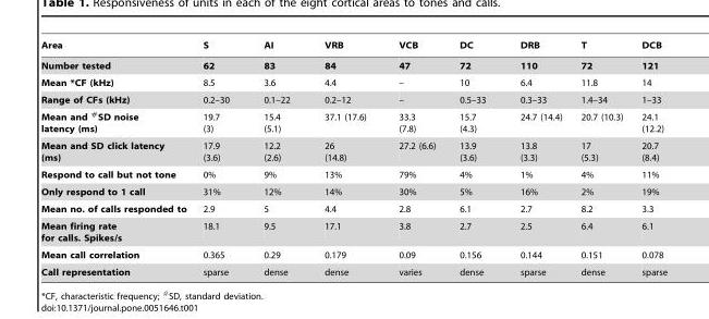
<table><thead><tr><td>Area</td><td>S</td><td>AI</td><td>VRB</td><td>VCB</td><td>DC</td><td>DRB</td><td>T</td><td>DCB</td></tr></thead><tbody><tr><td>Number tested</td><td>62</td><td>83</td><td>84</td><td>47</td><td>72</td><td>110</td><td>72</td><td>121</td></tr><tr><td>Mean *CF (kHz)</td><td>8.5</td><td>3.6</td><td>4.4</td><td>–</td><td>10</td><td>6.4</td><td>11.8</td><td>14</td></tr><tr><td>Range of CFs (kHz)</td><td>0.2–30</td><td>0.1–22</td><td>0.2–12</td><td>–</td><td>0.5–33</td><td>0.3–33</td><td>1.4–34</td><td>1–33</td></tr><tr><td>Mean and <sup>#</sup>SD noise latency (ms)</td><td>19.7 (3)</td><td>15.4 (5.1)</td><td>37.1 (17.6)</td><td>33.3 (7.8)</td><td>15.7 (4.3)</td><td>24.7 (14.4)</td><td>20.7 (10.3)</td><td>24.1 (12.2)</td></tr><tr><td>Mean and SD click latency (ms)</td><td>17.9 (3.6)</td><td>12.2 (2.6)</td><td>26 (14.8)</td><td>27.2 (6.6)</td><td>13.9 (3.6)</td><td>13.8 (3.3)</td><td>17 (5.3)</td><td>20.7 (8.4)</td></tr><tr><td>Respond to call but not tone</td><td>0%</td><td>9%</td><td>13%</td><td>79%</td><td>4%</td><td>1%</td><td>4%</td><td>11%</td></tr><tr><td>Only respond to 1 call</td><td>31%</td><td>12%</td><td>14%</td><td>30%</td><td>5%</td><td>16%</td><td>2%</td><td>19%</td></tr><tr><td>Mean no. of calls responded to</td><td>2.9</td><td>5</td><td>4.4</td><td>2.8</td><td>6.1</td><td>2.7</td><td>8.2</td><td>3.3</td></tr><tr><td>Mean firing rate for calls. Spikes/s</td><td>18.1</td><td>9.5</td><td>17.1</td><td>3.8</td><td>2.7</td><td>2.5</td><td>6.4</td><td>6.1</td></tr><tr><td>Mean call correlation</td><td>0.365</td><td>0.29</td><td>0.179</td><td>0.09</td><td>0.156</td><td>0.144</td><td>0.151</td><td>0.078</td></tr><tr><td>Call representation</td><td>sparse</td><td>dense</td><td>dense</td><td>varies</td><td>dense</td><td>sparse</td><td>dense</td><td>sparse</td></tr></tbody></table>